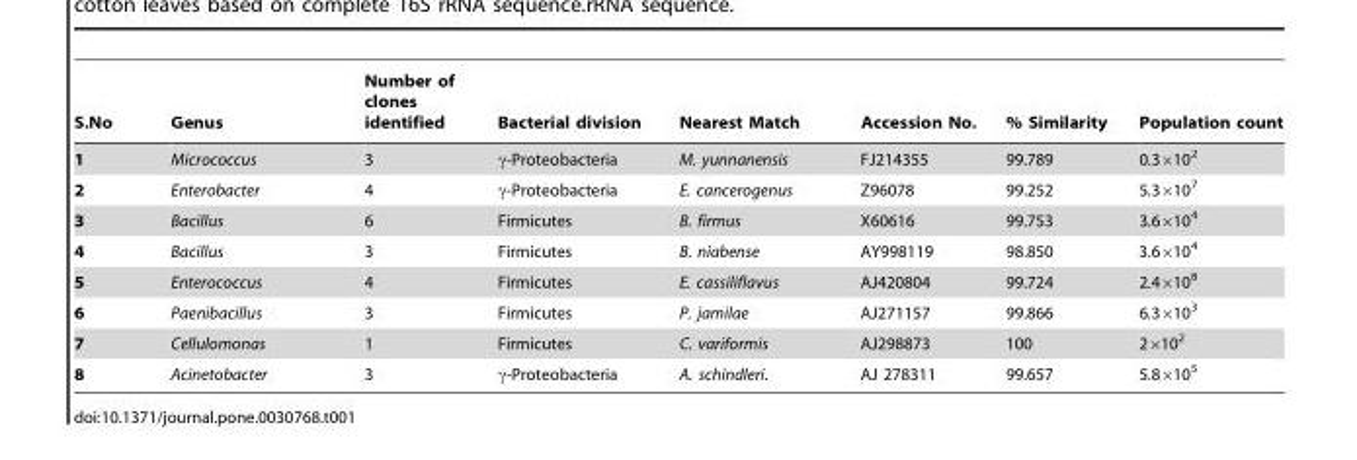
<table><thead><tr><td>S.No</td><td>Genus</td><td>Number of clones identified</td><td>Bacterial division</td><td>Nearest Match</td><td>Accession No.</td><td>% Similarity</td><td>Population count</td></tr></thead><tbody><tr><td>1</td><td>Micrococcus</td><td>3</td><td>γ-Proteobacteria</td><td>M. yunnanensis</td><td>FJ214355</td><td>99.789</td><td>0.3×10<sup>2</sup></td></tr><tr><td>2</td><td>Enterobacter</td><td>4</td><td>γ-Proteobacteria</td><td>E. cancerogenus</td><td>Z96078</td><td>99.252</td><td>5.3×10<sup>7</sup></td></tr><tr><td>3</td><td>Bacillus</td><td>6</td><td>Firmicutes</td><td>B. firmus</td><td>X60616</td><td>99.753</td><td>3.6×10<sup>4</sup></td></tr><tr><td>4</td><td>Bacillus</td><td>3</td><td>Firmicutes</td><td>B. niabense</td><td>AY998119</td><td>98.850</td><td>3.6×10<sup>4</sup></td></tr><tr><td>5</td><td>Enterococcus</td><td>4</td><td>Firmicutes</td><td>E. cassiliflavus</td><td>AJ420804</td><td>99.724</td><td>2.4×10<sup>8</sup></td></tr><tr><td>6</td><td>Paenibacillus</td><td>3</td><td>Firmicutes</td><td>P. jamilae</td><td>AJ271157</td><td>99.866</td><td>6.3×10<sup>3</sup></td></tr><tr><td>7</td><td>Cellulomonas</td><td>1</td><td>Firmicutes</td><td>C. variformis</td><td>AJ298873</td><td>100</td><td>2×10<sup>2</sup></td></tr><tr><td>8</td><td>Acinetobacter</td><td>3</td><td>γ-Proteobacteria</td><td>A. schindleri.</td><td>AJ 278311</td><td>99.657</td><td>5.8×10<sup>5</sup></td></tr></tbody></table>